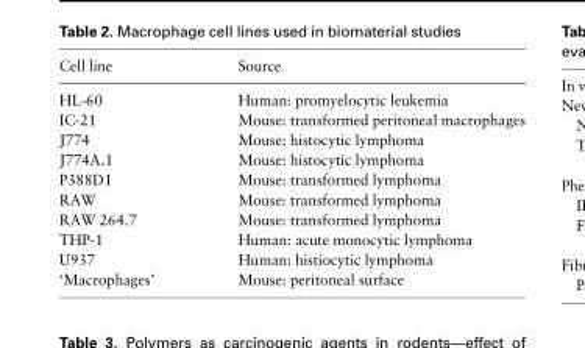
<table><thead><tr><td>Cell line</td><td>Source</td></tr></thead><tbody><tr><td>HL-60</td><td>Human: promyelocytic leukemia</td></tr><tr><td>IC-21</td><td>Mouse: transformed peritoneal macrophages</td></tr><tr><td>J774</td><td>Mouse: histocytic lymphoma</td></tr><tr><td>J774A.1</td><td>Mouse: histocytic lymphoma</td></tr><tr><td>P388D1</td><td>Mouse: transformed lymphoma</td></tr><tr><td>RAW</td><td>Mouse: transformed lymphoma</td></tr><tr><td>RAW 264.7</td><td>Mouse: transformed lymphoma</td></tr><tr><td>THP-1</td><td>Human: acute monocytic lymphoma</td></tr><tr><td>U937</td><td>Human: histiocytic lymphoma</td></tr><tr><td>‘Macrophages’</td><td>Mouse: peritoneal surface</td></tr></tbody></table>